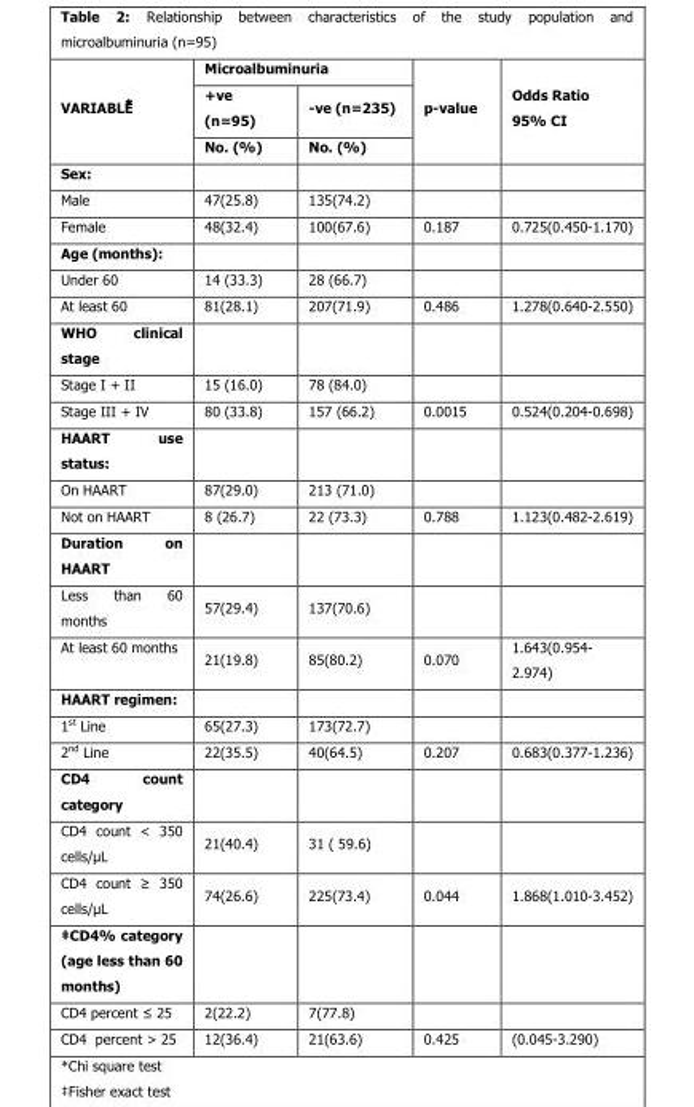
<table><thead><tr><td rowspan="3">VARIABLE⃰</td><td colspan="2">Microalbuminuria</td><td rowspan="3">p-value</td><td rowspan="3">Odds Ratio 95% CI</td></tr><tr><td rowspan="2">+ve (n=95) No. (%)</td><td rowspan="2">-ve (n=235) No. (%)</td></tr><tr></tr></thead><tbody><tr><td colspan="5">Sex:</td></tr><tr><td>Male</td><td>47(25.8)</td><td>135(74.2)</td><td></td><td></td></tr><tr><td>Female</td><td>48(32.4)</td><td>100(67.6)</td><td>0.187</td><td>0.725(0.450-1.170)</td></tr><tr><td colspan="5">Age (months):</td></tr><tr><td>Under 60</td><td>14 (33.3)</td><td>28 (66.7)</td><td></td><td></td></tr><tr><td>At least 60</td><td>81(28.1)</td><td>207(71.9)</td><td>0.486</td><td>1.278(0.640-2.550)</td></tr><tr><td colspan="5">WHO clinical stage</td></tr><tr><td>Stage I + II</td><td>15 (16.0)</td><td>78 (84.0)</td><td></td><td></td></tr><tr><td>Stage III + IV</td><td>80 (33.8)</td><td>157 (66.2)</td><td>0.0015</td><td>0.524(0.204-0.698)</td></tr><tr><td colspan="5">HAART use status:</td></tr><tr><td>On HAART</td><td>87(29.0)</td><td>213 (71.0)</td><td></td><td></td></tr><tr><td>Not on HAART</td><td>8 (26.7)</td><td>22 (73.3)</td><td>0.788</td><td>1.123(0.482-2.619)</td></tr><tr><td colspan="5">Duration on HAART</td></tr><tr><td>Less than 60 months</td><td>57(29.4)</td><td>137(70.6)</td><td></td><td></td></tr><tr><td>At least 60 months</td><td>21(19.8)</td><td>85(80.2)</td><td>0.070</td><td>1.643(0.954- 2.974)</td></tr><tr><td colspan="5">HAART regimen:</td></tr><tr><td>1<sup>st</sup> Line</td><td>65(27.3)</td><td>173(72.7)</td><td></td><td></td></tr><tr><td>2<sup>nd</sup> Line</td><td>22(35.5)</td><td>40(64.5)</td><td>0.207</td><td>0.683(0.377-1.236)</td></tr><tr><td colspan="5">CD4 count category</td></tr><tr><td>CD4 count &lt; 350 cells/µL</td><td>21(40.4)</td><td>31 ( 59.6)</td><td></td><td></td></tr><tr><td>CD4 count ≥ 350 cells/µL</td><td>74(26.6)</td><td>225(73.4)</td><td>0.044</td><td>1.868(1.010-3.452)</td></tr><tr><td colspan="5">‡CD4% category (age less than 60 months)</td></tr><tr><td>CD4 percent ≤ 25</td><td>2(22.2)</td><td>7(77.8)</td><td></td><td></td></tr><tr><td>CD4 percent ˃ 25</td><td>12(36.4)</td><td>21(63.6)</td><td>0.425</td><td>(0.045-3.290)</td></tr></tbody></table>